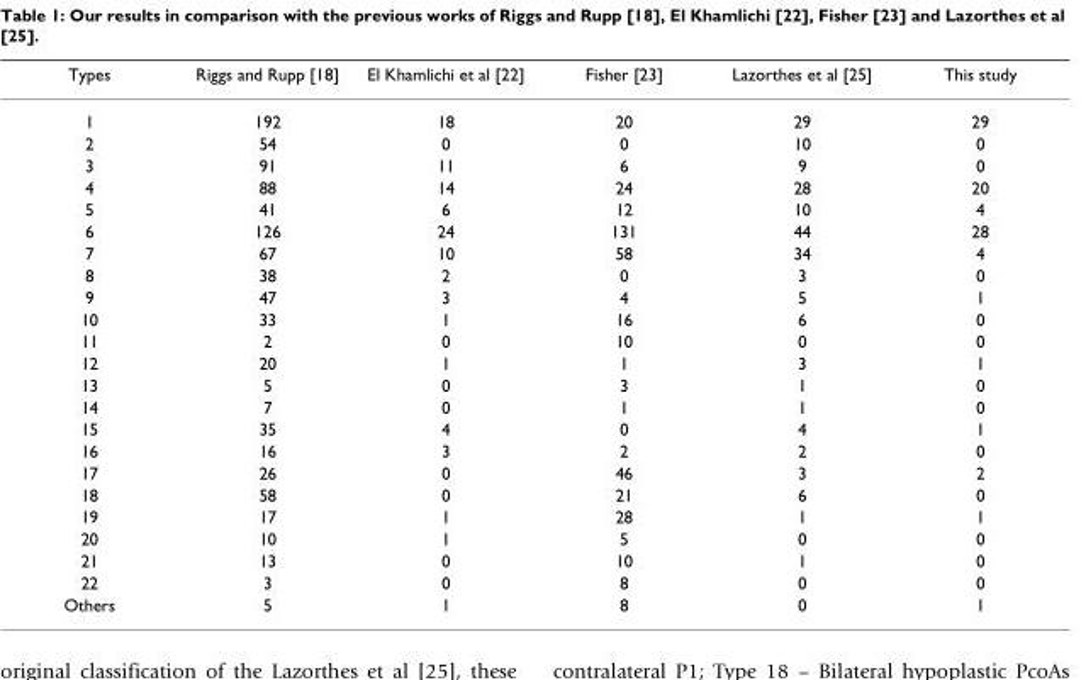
<table><thead><tr><td>Types</td><td>Riggs and Rupp [18]</td><td>El Khamlichi et al [22]</td><td>Fisher [23]</td><td>Lazorthes et al [25]</td><td>This study</td></tr></thead><tbody><tr><td>1</td><td>192</td><td>18</td><td>20</td><td>29</td><td>29</td></tr><tr><td>2</td><td>54</td><td>0</td><td>0</td><td>10</td><td>0</td></tr><tr><td>3</td><td>91</td><td>11</td><td>6</td><td>9</td><td>0</td></tr><tr><td>4</td><td>88</td><td>14</td><td>24</td><td>28</td><td>20</td></tr><tr><td>5</td><td>41</td><td>6</td><td>12</td><td>10</td><td>4</td></tr><tr><td>6</td><td>126</td><td>24</td><td>131</td><td>44</td><td>28</td></tr><tr><td>7</td><td>67</td><td>10</td><td>58</td><td>34</td><td>4</td></tr><tr><td>8</td><td>38</td><td>2</td><td>0</td><td>3</td><td>0</td></tr><tr><td>9</td><td>47</td><td>3</td><td>4</td><td>5</td><td>1</td></tr><tr><td>10</td><td>33</td><td>1</td><td>16</td><td>6</td><td>0</td></tr><tr><td>11</td><td>2</td><td>0</td><td>10</td><td>0</td><td>0</td></tr><tr><td>12</td><td>20</td><td>1</td><td>1</td><td>3</td><td>1</td></tr><tr><td>13</td><td>5</td><td>0</td><td>3</td><td>1</td><td>0</td></tr><tr><td>14</td><td>7</td><td>0</td><td>1</td><td>1</td><td>0</td></tr><tr><td>15</td><td>35</td><td>4</td><td>0</td><td>4</td><td>1</td></tr><tr><td>16</td><td>16</td><td>3</td><td>2</td><td>2</td><td>0</td></tr><tr><td>17</td><td>26</td><td>0</td><td>46</td><td>3</td><td>2</td></tr><tr><td>18</td><td>58</td><td>0</td><td>21</td><td>6</td><td>0</td></tr><tr><td>19</td><td>17</td><td>1</td><td>28</td><td>1</td><td>1</td></tr><tr><td>20</td><td>10</td><td>1</td><td>5</td><td>0</td><td>0</td></tr><tr><td>21</td><td>13</td><td>0</td><td>10</td><td>1</td><td>0</td></tr><tr><td>22</td><td>3</td><td>0</td><td>8</td><td>0</td><td>0</td></tr><tr><td>Others</td><td>5</td><td>1</td><td>8</td><td>0</td><td>1</td></tr></tbody></table>